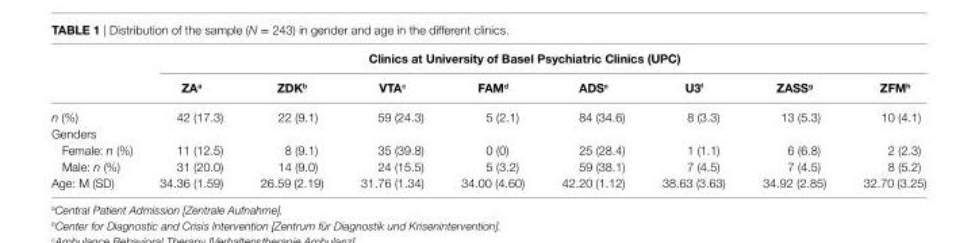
<table><thead><tr><td rowspan="2"></td><td colspan="8">clinics at University of Basel Psychiatric clinics (UPc)</td></tr><tr><td>Za<sup>a</sup></td><td>ZDK<sup>b</sup></td><td>VTa<sup>c</sup></td><td>FaM<sup>d</sup></td><td>aDs<sup>e</sup></td><td>U3<sup>f</sup></td><td>Zass<sup>g</sup></td><td>ZFM<sup>h</sup></td></tr></thead><tbody><tr><td>n (%)</td><td>42 (17.3)</td><td>22 (9.1)</td><td>59 (24.3)</td><td>5 (2.1)</td><td>84 (34.6)</td><td>8 (3.3)</td><td>13 (5.3)</td><td>10 (4.1)</td></tr><tr><td colspan="9">Genders</td></tr><tr><td>Female: n (%)</td><td>11 (12.5)</td><td>8 (9.1)</td><td>35 (39.8)</td><td>0 (0)</td><td>25 (28.4)</td><td>1 (1.1)</td><td>6 (6.8)</td><td>2 (2.3)</td></tr><tr><td>Male: n (%)</td><td>31 (20.0)</td><td>14 (9.0)</td><td>24 (15.5)</td><td>5 (3.2)</td><td>59 (38.1)</td><td>7 (4.5)</td><td>7 (4.5)</td><td>8 (5.2)</td></tr><tr><td>Age: M (SD)</td><td>34.36 (1.59)</td><td>26.59 (2.19)</td><td>31.76 (1.34)</td><td>34.00 (4.60)</td><td>42.20 (1.12)</td><td>38.63 (3.63)</td><td>34.92 (2.85)</td><td>32.70 (3.25)</td></tr></tbody></table>